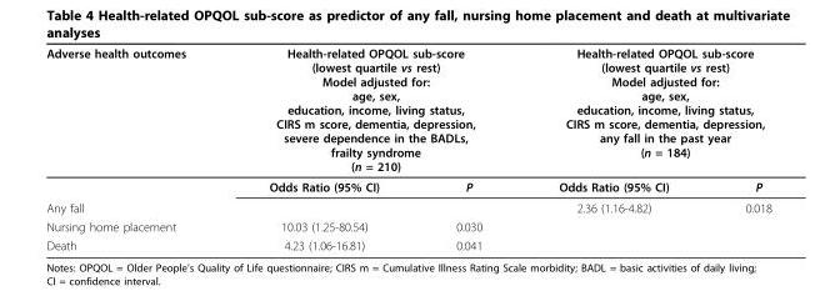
<table><thead><tr><td rowspan="2">Adverse health outcomes</td><td colspan="2">Health-related OPQOL sub-score (lowest quartile vs rest) Model adjusted for: age, sex, education, income, living status, CIRS m score, dementia, depression, severe dependence in the BADLs, frailty syndrome (n = 210)</td><td colspan="2">Health-related OPQOL sub-score (lowest quartile vs rest) Model adjusted for: age, sex, education, income, living status, CIRS m score, dementia, depression, any fall in the past year (n = 184)</td></tr><tr><td>Odds Ratio (95% CI)</td><td>P</td><td>Odds Ratio (95% CI)</td><td>P</td></tr></thead><tbody><tr><td>Any fall</td><td></td><td></td><td>2.36 (1.16-4.82)</td><td>0.018</td></tr><tr><td>Nursing home placement</td><td>10.03 (1.25-80.54)</td><td>0.030</td><td></td><td></td></tr><tr><td>Death</td><td>4.23 (1.06-16.81)</td><td>0.041</td><td></td><td></td></tr></tbody></table>